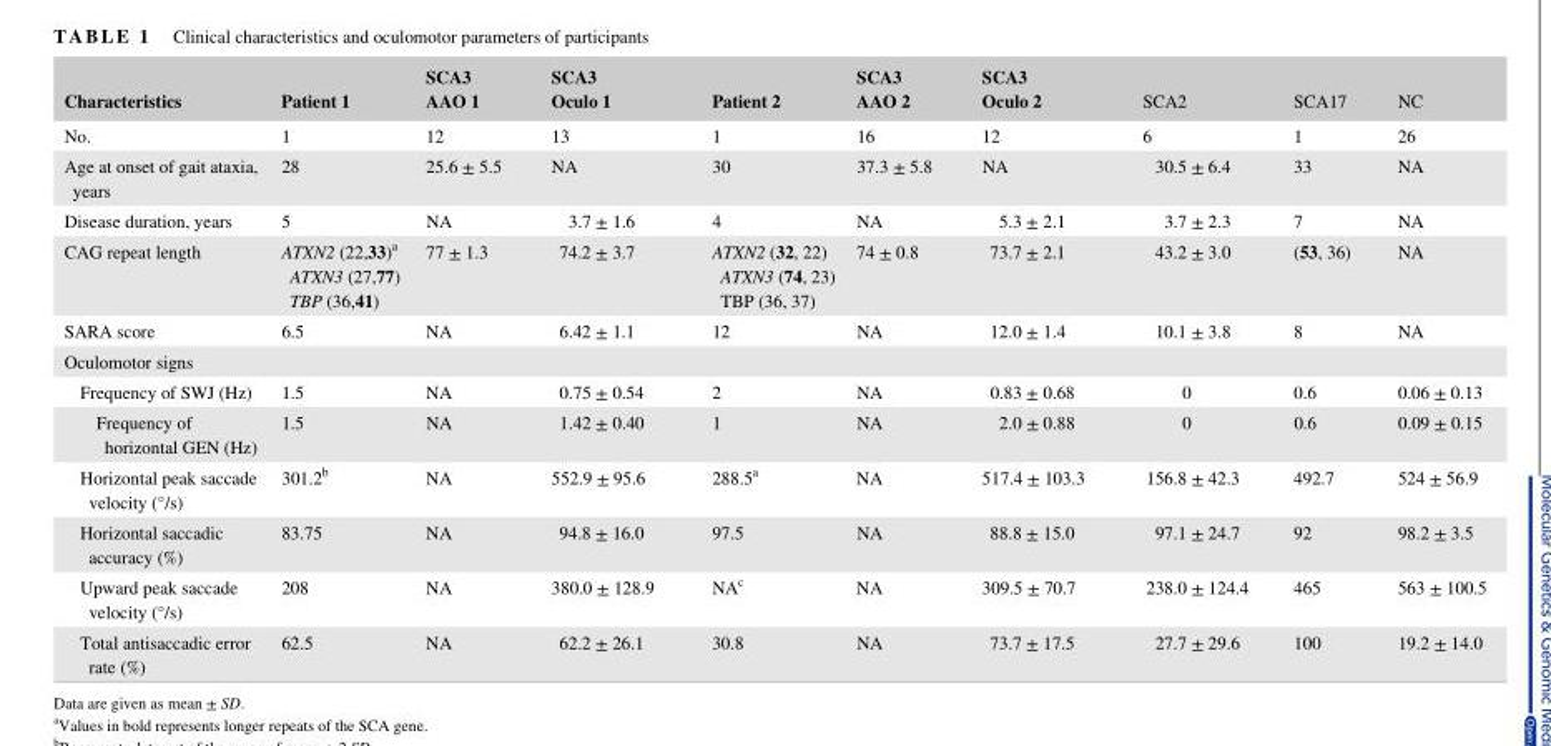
<table><thead><tr><td>Characteristics</td><td>Patient 1</td><td>SCA3 AAO 1</td><td>SCA3 Oculo 1</td><td>Patient 2</td><td>SCA3 AAO 2</td><td>SCA3 Oculo 2</td><td>SCA2</td><td>SCA17</td><td>NC</td></tr></thead><tbody><tr><td>No.</td><td>1</td><td>12</td><td>13</td><td>1</td><td>16</td><td>12</td><td>6</td><td>1</td><td>26</td></tr><tr><td>Age at onset of gait ataxia, years</td><td>28</td><td>25.6 ± 5.5</td><td>NA</td><td>30</td><td>37.3 ± 5.8</td><td>NA</td><td>30.5 ± 6.4</td><td>33</td><td>NA</td></tr><tr><td>Disease duration, years</td><td>5</td><td>NA</td><td>3.7 ± 1.6</td><td>4</td><td>NA</td><td>5.3 ± 2.1</td><td>3.7 ± 2.3</td><td>7</td><td>NA</td></tr><tr><td>CAG repeat length</td><td>ATXN2 (22,33)<sup>a</sup> ATXN3 (27,77) TBP (36,41)</td><td>77 ± 1.3</td><td>74.2 ± 3.7</td><td>ATXN2 (32, 22) ATXN3 (74, 23) TBP (36, 37)</td><td>74 ± 0.8</td><td>73.7 ± 2.1</td><td>43.2 ± 3.0</td><td>(53, 36)</td><td>NA</td></tr><tr><td>SARA score</td><td>6.5</td><td>NA</td><td>6.42 ± 1.1</td><td>12</td><td>NA</td><td>12.0 ± 1.4</td><td>10.1 ± 3.8</td><td>8</td><td>NA</td></tr><tr><td colspan="10">Oculomotor signs</td></tr><tr><td>Frequency of SWJ (Hz)</td><td>1.5</td><td>NA</td><td>0.75 ± 0.54</td><td>2</td><td>NA</td><td>0.83 ± 0.68</td><td>0</td><td>0.6</td><td>0.06 ± 0.13</td></tr><tr><td>Frequency of horizontal GEN (Hz)</td><td>1.5</td><td>NA</td><td>1.42 ± 0.40</td><td>1</td><td>NA</td><td>2.0 ± 0.88</td><td>0</td><td>0.6</td><td>0.09 ± 0.15</td></tr><tr><td>Horizontal peak saccade velocity (°/s)</td><td>301.2<sup>b</sup></td><td>NA</td><td>552.9 ± 95.6</td><td>288.5<sup>a</sup></td><td>NA</td><td>517.4 ± 103.3</td><td>156.8 ± 42.3</td><td>492.7</td><td>524 ± 56.9</td></tr><tr><td>Horizontal saccadic accuracy (%)</td><td>83.75</td><td>NA</td><td>94.8 ± 16.0</td><td>97.5</td><td>NA</td><td>88.8 ± 15.0</td><td>97.1 ± 24.7</td><td>92</td><td>98.2 ± 3.5</td></tr><tr><td>Upward peak saccade velocity (°/s)</td><td>208</td><td>NA</td><td>380.0 ± 128.9</td><td>NA<sup>c</sup></td><td>NA</td><td>309.5 ± 70.7</td><td>238.0 ± 124.4</td><td>465</td><td>563 ± 100.5</td></tr><tr><td>Total antisaccadic error rate (%)</td><td>62.5</td><td>NA</td><td>62.2 ± 26.1</td><td>30.8</td><td>NA</td><td>73.7 ± 17.5</td><td>27.7 ± 29.6</td><td>100</td><td>19.2 ± 14.0</td></tr></tbody></table>